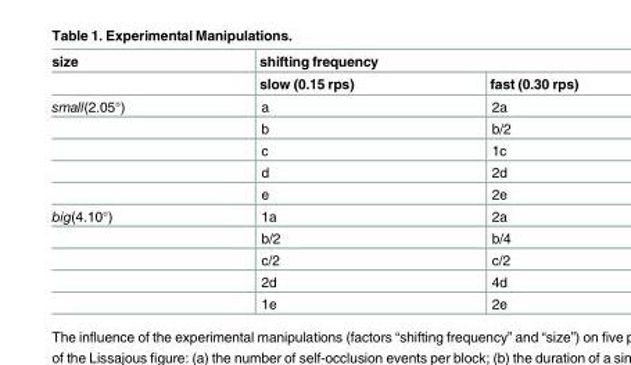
<table><thead><tr><td rowspan="2">size</td><td colspan="2">shifting frequency</td></tr><tr><td>slow (0.15 rps)</td><td>fast (0.30 rps)</td></tr></thead><tbody><tr><td rowspan="5">small(2.05°)</td><td>a</td><td>2a</td></tr><tr><td>b</td><td>b/2</td></tr><tr><td>c</td><td>1c</td></tr><tr><td>d</td><td>2d</td></tr><tr><td>e</td><td>2e</td></tr><tr><td rowspan="5">big(4.10°)</td><td>1a</td><td>2a</td></tr><tr><td>b/2</td><td>b/4</td></tr><tr><td>c/2</td><td>c/2</td></tr><tr><td>2d</td><td>4d</td></tr><tr><td>1e</td><td>2e</td></tr></tbody></table>